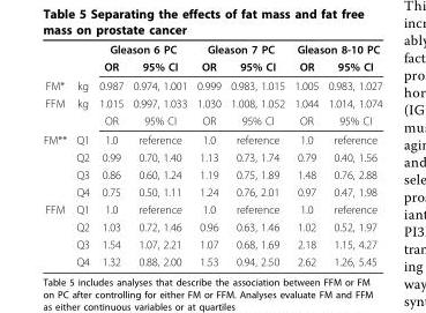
<table><thead><tr><td rowspan="2"></td><td rowspan="2"></td><td colspan="2">Gleason 6 PC</td><td colspan="2">Gleason 7 PC</td><td colspan="2">Gleason 8-10 PC</td></tr><tr><td>OR</td><td>95% CI</td><td>OR</td><td>95% CI</td><td>OR</td><td>95% CI</td></tr></thead><tbody><tr><td>FM*</td><td>kg</td><td>0.987</td><td>0.974, 1.001</td><td>0.999</td><td>0.983, 1.015</td><td>1.005</td><td>0.983, 1.027</td></tr><tr><td rowspan="2">FFM</td><td>kg</td><td>1.015</td><td>0.997, 1.033</td><td>1.030</td><td>1.008, 1.052</td><td>1.044</td><td>1.014, 1.074</td></tr><tr><td></td><td>OR</td><td>95% CI</td><td>OR</td><td>95% CI</td><td>OR</td><td>95% CI</td></tr><tr><td rowspan="4">FM**</td><td>Q1</td><td>1.0</td><td>reference</td><td>1.0</td><td>reference</td><td>1.0</td><td>reference</td></tr><tr><td>Q2</td><td>0.99</td><td>0.70, 1.40</td><td>1.13</td><td>0.73, 1.74</td><td>0.79</td><td>0.40, 1.56</td></tr><tr><td>Q3</td><td>0.86</td><td>0.60, 1.24</td><td>1.19</td><td>0.75, 1.89</td><td>1.48</td><td>0.76, 2.88</td></tr><tr><td>Q4</td><td>0.75</td><td>0.50, 1.11</td><td>1.24</td><td>0.76, 2.01</td><td>0.97</td><td>0.47, 1.98</td></tr><tr><td rowspan="4">FFM</td><td>Q1</td><td>1.0</td><td>reference</td><td>1.0</td><td>reference</td><td>1.0</td><td>reference</td></tr><tr><td>Q2</td><td>1.03</td><td>0.72, 1.46</td><td>0.96</td><td>0.63, 1.46</td><td>1.02</td><td>0.52, 1.97</td></tr><tr><td>Q3</td><td>1.54</td><td>1.07, 2.21</td><td>1.07</td><td>0.68, 1.69</td><td>2.18</td><td>1.15, 4.27</td></tr><tr><td>Q4</td><td>1.32</td><td>0.88, 2.00</td><td>1.53</td><td>0.94, 2.50</td><td>2.62</td><td>1.26, 5.45</td></tr></tbody></table>